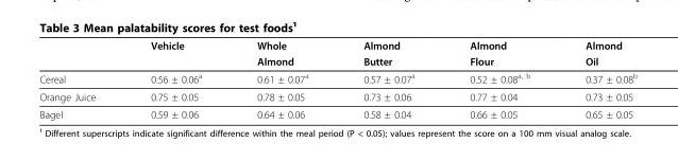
<table><thead><tr><td rowspan="2"></td><td rowspan="2">Vehicle</td><td rowspan="2">Whole Almond</td><td rowspan="2">Almond Butter</td><td rowspan="2">Almond Flour</td><td rowspan="2">Almond Oil</td></tr><tr></tr></thead><tbody><tr><td>Cereal</td><td>0.56 ± 0.06<sup>a</sup></td><td>0.61 ± 0.07<sup>a</sup></td><td>0.57 ± 0.07<sup>a</sup></td><td>0.52 ± 0.08<sup>a, b</sup></td><td>0.37 ± 0.08<sup>b</sup></td></tr><tr><td>Orange Juice</td><td>0.75 ± 0.05</td><td>0.78 ± 0.05</td><td>0.73 ± 0.06</td><td>0.77 ± 0.04</td><td>0.73 ± 0.05</td></tr><tr><td>Bagel</td><td>0.59 ± 0.06</td><td>0.64 ± 0.06</td><td>0.58 ± 0.04</td><td>0.66 ± 0.05</td><td>0.65 ± 0.05</td></tr></tbody></table>